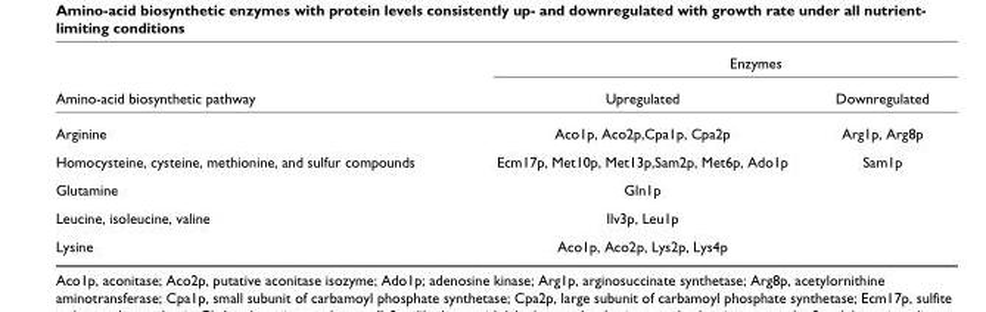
<table><thead><tr><td rowspan="2">Amino-acid biosynthetic pathway</td><td colspan="2">Enzymes</td></tr><tr><td>Upregulated</td><td>Downregulated</td></tr></thead><tbody><tr><td>Arginine</td><td>Aco1p, Aco2p,Cpa1p, Cpa2p</td><td>Arg1p, Arg8p</td></tr><tr><td>Homocysteine, cysteine, methionine, and sulfur compounds</td><td>Ecm17p, Met10p, Met13p,Sam2p, Met6p, Ado1p</td><td>Sam1p</td></tr><tr><td>Glutamine</td><td>Gln1p</td><td></td></tr><tr><td>Leucine, isoleucine, valine</td><td>Ilv3p, Leu1p</td><td></td></tr><tr><td>Lysine</td><td>Aco1p, Aco2p, Lys2p, Lys4p</td><td></td></tr></tbody></table>